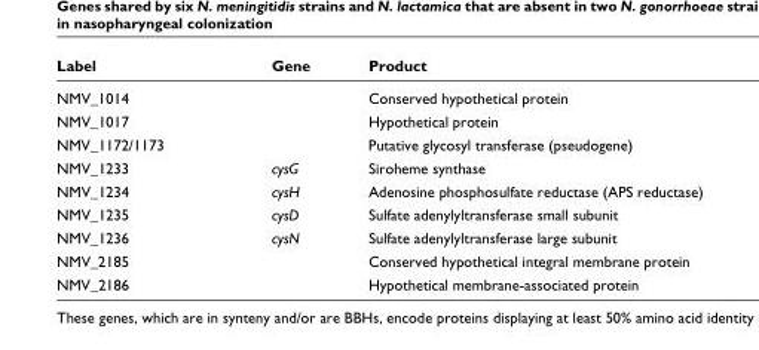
<table><thead><tr><td>Label</td><td>Gene</td><td>Product</td></tr></thead><tbody><tr><td>NMV_1014</td><td></td><td>Conserved hypothetical protein</td></tr><tr><td>NMV_1017</td><td></td><td>Hypothetical protein</td></tr><tr><td>NMV_1172/1173</td><td></td><td>Putative glycosyl transferase (pseudogene)</td></tr><tr><td>NMV_1233</td><td>cysG</td><td>Siroheme synthase</td></tr><tr><td>NMV_1234</td><td>cysH</td><td>Adenosine phosphosulfate reductase (APS reductase)</td></tr><tr><td>NMV_1235</td><td>cysD</td><td>Sulfate adenylyltransferase small subunit</td></tr><tr><td>NMV_1236</td><td>cysN</td><td>Sulfate adenylyltransferase large subunit</td></tr><tr><td>NMV_2185</td><td></td><td>Conserved hypothetical integral membrane protein</td></tr><tr><td>NMV_2186</td><td></td><td>Hypothetical membrane-associated protein</td></tr></tbody></table>